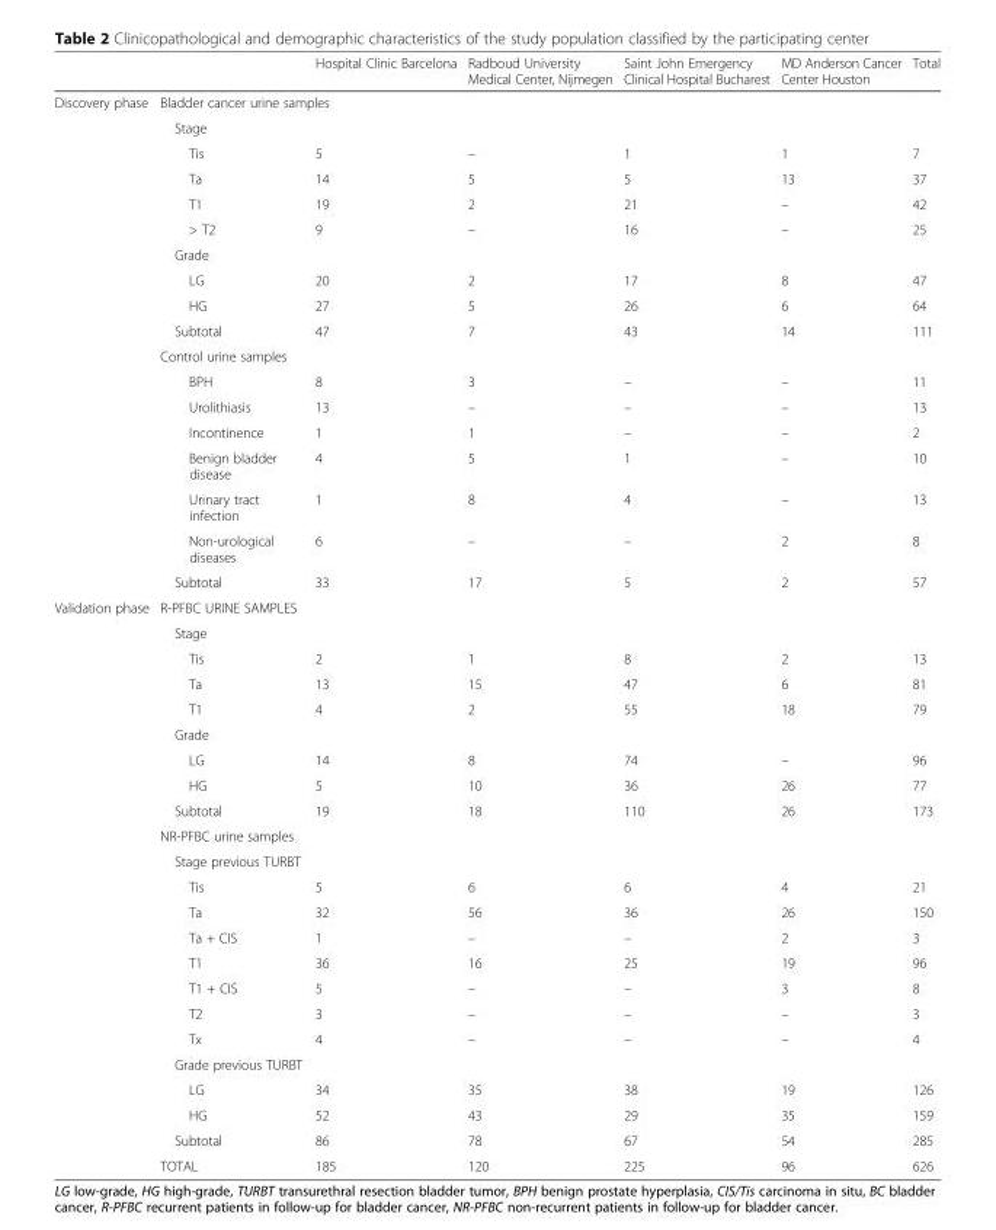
<table><thead><tr><td></td><td></td><td>Hospital Clinic Barcelona</td><td>Radboud University Medical Center, Nijmegen</td><td>Saint John Emergency Clinical Hospital Bucharest</td><td>MD Anderson Cancer Center Houston</td><td>Total</td></tr></thead><tbody><tr><td rowspan="18">Discovery phase</td><td colspan="6">Bladder cancer urine samples</td></tr><tr><td colspan="6">Stage</td></tr><tr><td>Tis</td><td>5</td><td>–</td><td>1</td><td>1</td><td>7</td></tr><tr><td>Ta</td><td>14</td><td>5</td><td>5</td><td>13</td><td>37</td></tr><tr><td>T1</td><td>19</td><td>2</td><td>21</td><td>–</td><td>42</td></tr><tr><td>&gt; T2</td><td>9</td><td>–</td><td>16</td><td>–</td><td>25</td></tr><tr><td colspan="6">Grade</td></tr><tr><td>LG</td><td>20</td><td>2</td><td>17</td><td>8</td><td>47</td></tr><tr><td>HG</td><td>27</td><td>5</td><td>26</td><td>6</td><td>64</td></tr><tr><td>Subtotal</td><td>47</td><td>7</td><td>43</td><td>14</td><td>111</td></tr><tr><td colspan="6">Control urine samples</td></tr><tr><td>BPH</td><td>8</td><td>3</td><td>–</td><td>–</td><td>11</td></tr><tr><td>Urolithiasis</td><td>13</td><td>–</td><td>–</td><td>–</td><td>13</td></tr><tr><td>Incontinence</td><td>1</td><td>1</td><td>–</td><td>–</td><td>2</td></tr><tr><td>Benign bladder disease</td><td>4</td><td>5</td><td>1</td><td>–</td><td>10</td></tr><tr><td>Urinary tract infection</td><td>1</td><td>8</td><td>4</td><td>–</td><td>13</td></tr><tr><td>Non-urological diseases</td><td>6</td><td>–</td><td>–</td><td>2</td><td>8</td></tr><tr><td>Subtotal</td><td>33</td><td>17</td><td>5</td><td>2</td><td>57</td></tr><tr><td rowspan="23">Validation phase</td><td colspan="6">R-PFBC URINE SAMPLES</td></tr><tr><td colspan="6">Stage</td></tr><tr><td>Tis</td><td>2</td><td>1</td><td>8</td><td>2</td><td>13</td></tr><tr><td>Ta</td><td>13</td><td>15</td><td>47</td><td>6</td><td>81</td></tr><tr><td>T1</td><td>4</td><td>2</td><td>55</td><td>18</td><td>79</td></tr><tr><td colspan="6">Grade</td></tr><tr><td>LG</td><td>14</td><td>8</td><td>74</td><td>–</td><td>96</td></tr><tr><td>HG</td><td>5</td><td>10</td><td>36</td><td>26</td><td>77</td></tr><tr><td>Subtotal</td><td>19</td><td>18</td><td>110</td><td>26</td><td>173</td></tr><tr><td colspan="6">NR-PFBC urine samples</td></tr><tr><td colspan="6">Stage previous TURBT</td></tr><tr><td>Tis</td><td>5</td><td>6</td><td>6</td><td>4</td><td>21</td></tr><tr><td>Ta</td><td>32</td><td>56</td><td>36</td><td>26</td><td>150</td></tr><tr><td>Ta + CIS</td><td>1</td><td>–</td><td>–</td><td>2</td><td>3</td></tr><tr><td>T1</td><td>36</td><td>16</td><td>25</td><td>19</td><td>96</td></tr><tr><td>T1 + CIS</td><td>5</td><td>–</td><td>–</td><td>3</td><td>8</td></tr><tr><td>T2</td><td>3</td><td>–</td><td>–</td><td>–</td><td>3</td></tr><tr><td>Tx</td><td>4</td><td>–</td><td>–</td><td>–</td><td>4</td></tr><tr><td colspan="6">Grade previous TURBT</td></tr><tr><td>LG</td><td>34</td><td>35</td><td>38</td><td>19</td><td>126</td></tr><tr><td>HG</td><td>52</td><td>43</td><td>29</td><td>35</td><td>159</td></tr><tr><td>Subtotal</td><td>86</td><td>78</td><td>67</td><td>54</td><td>285</td></tr><tr><td>TOTAL</td><td>185</td><td>120</td><td>225</td><td>96</td><td>626</td></tr></tbody></table>